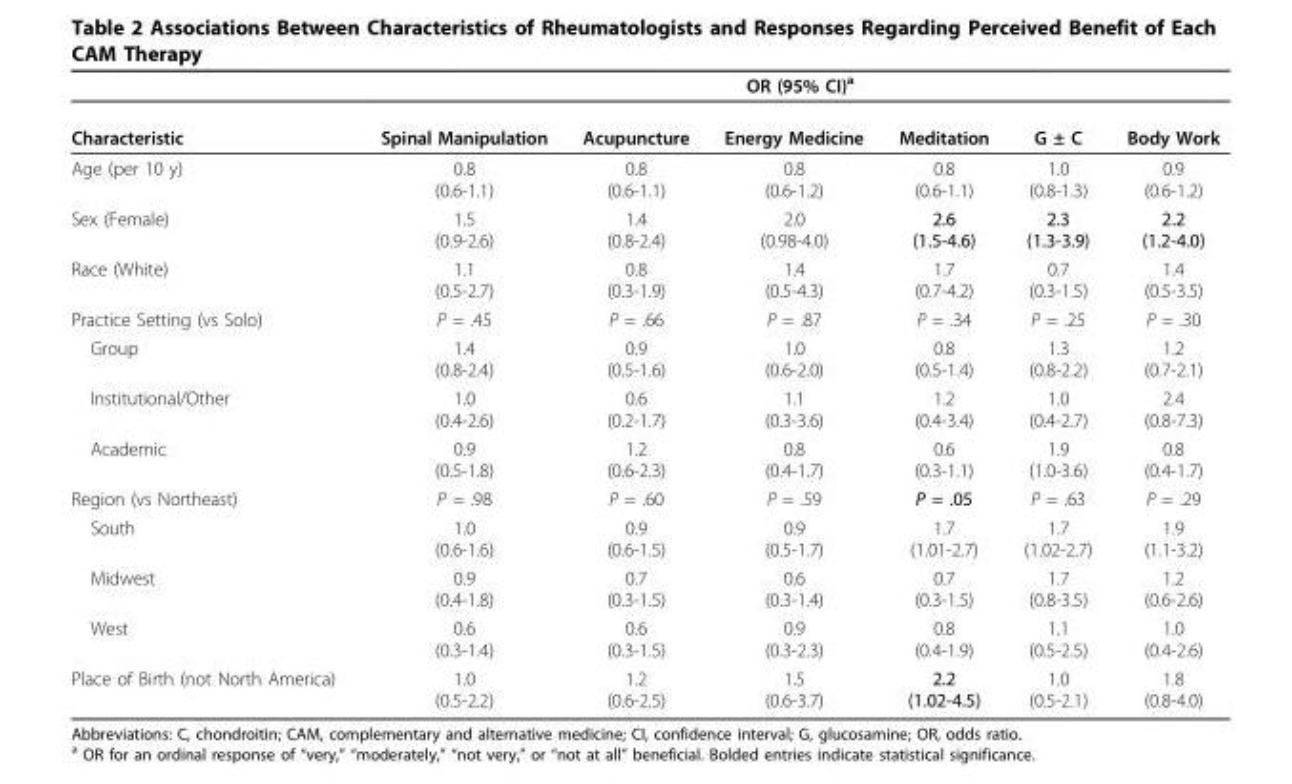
<table><thead><tr><td rowspan="2">Characteristic</td><td colspan="6">OR (95% CI)<sup>a</sup></td></tr><tr><td>Spinal Manipulation</td><td>Acupuncture</td><td>Energy Medicine</td><td>Meditation</td><td>G ± C</td><td>Body Work</td></tr></thead><tbody><tr><td>Age (per 10 y)</td><td>0.8 (0.6-1.1)</td><td>0.8 (0.6-1.1)</td><td>0.8 (0.6-1.2)</td><td>0.8 (0.6-1.1)</td><td>1.0 (0.8-1.3)</td><td>0.9 (0.6-1.2)</td></tr><tr><td>Sex (Female)</td><td>1.5 (0.9-2.6)</td><td>1.4 (0.8-2.4)</td><td>2.0 (0.98-4.0)</td><td>2.6 (1.5-4.6)</td><td>2.3 (1.3-3.9)</td><td>2.2 (1.2-4.0)</td></tr><tr><td>Race (White)</td><td>1.1 (0.5-2.7)</td><td>0.8 (0.3-1.9)</td><td>1.4 (0.5-4.3)</td><td>1.7 (0.7-4.2)</td><td>0.7 (0.3-1.5)</td><td>1.4 (0.5-3.5)</td></tr><tr><td>Practice Setting (vs Solo)</td><td>P = .45</td><td>P = .66</td><td>P = .87</td><td>P = .34</td><td>P = .25</td><td>P = .30</td></tr><tr><td>Group</td><td>1.4 (0.8-2.4)</td><td>0.9 (0.5-1.6)</td><td>1.0 (0.6-2.0)</td><td>0.8 (0.5-1.4)</td><td>1.3 (0.8-2.2)</td><td>1.2 (0.7-2.1)</td></tr><tr><td>Institutional/Other</td><td>1.0 (0.4-2.6)</td><td>0.6 (0.2-1.7)</td><td>1.1 (0.3-3.6)</td><td>1.2 (0.4-3.4)</td><td>1.0 (0.4-2.7)</td><td>2.4 (0.8-7.3)</td></tr><tr><td>Academic</td><td>0.9 (0.5-1.8)</td><td>1.2 (0.6-2.3)</td><td>0.8 (0.4-1.7)</td><td>0.6 (0.3-1.1)</td><td>1.9 (1.0-3.6)</td><td>0.8 (0.4-1.7)</td></tr><tr><td>Region (vs Northeast)</td><td>P = .98</td><td>P = .60</td><td>P = .59</td><td>P = .05</td><td>P = .63</td><td>P = .29</td></tr><tr><td>South</td><td>1.0 (0.6-1.6)</td><td>0.9 (0.6-1.5)</td><td>0.9 (0.5-1.7)</td><td>1.7 (1.01-2.7)</td><td>1.7 (1.02-2.7)</td><td>1.9 (1.1-3.2)</td></tr><tr><td>Midwest</td><td>0.9 (0.4-1.8)</td><td>0.7 (0.3-1.5)</td><td>0.6 (0.3-1.4)</td><td>0.7 (0.3-1.5)</td><td>1.7 (0.8-3.5)</td><td>1.2 (0.6-2.6)</td></tr><tr><td>West</td><td>0.6 (0.3-1.4)</td><td>0.6 (0.3-1.5)</td><td>0.9 (0.3-2.3)</td><td>0.8 (0.4-1.9)</td><td>1.1 (0.5-2.5)</td><td>1.0 (0.4-2.6)</td></tr><tr><td>Place of Birth (not North America)</td><td>1.0 (0.5-2.2)</td><td>1.2 (0.6-2.5)</td><td>1.5 (0.6-3.7)</td><td>2.2 (1.02-4.5)</td><td>1.0 (0.5-2.1)</td><td>1.8 (0.8-4.0)</td></tr></tbody></table>